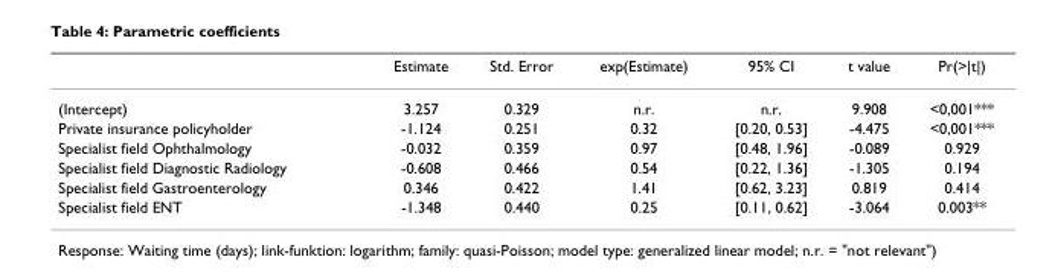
<table><thead><tr><td></td><td>Estimate</td><td>Std. Error</td><td>exp(Estimate)</td><td>95% CI</td><td>t value</td><td>Pr(&gt;|t|)</td></tr></thead><tbody><tr><td>(Intercept)</td><td>3.257</td><td>0.329</td><td>n.r.</td><td>n.r.</td><td>9.908</td><td>&lt;0,001***</td></tr><tr><td>Private insurance policyholder</td><td>-1.124</td><td>0.251</td><td>0.32</td><td>[0.20, 0.53]</td><td>-4.475</td><td>&lt;0,001***</td></tr><tr><td>Specialist field Ophthalmology</td><td>-0.032</td><td>0.359</td><td>0.97</td><td>[0.48, 1.96]</td><td>-0.089</td><td>0.929</td></tr><tr><td>Specialist field Diagnostic Radiology</td><td>-0.608</td><td>0.466</td><td>0.54</td><td>[0.22, 1.36]</td><td>-1.305</td><td>0.194</td></tr><tr><td>Specialist field Gastroenterology</td><td>0.346</td><td>0.422</td><td>1.41</td><td>[0.62, 3.23]</td><td>0.819</td><td>0.414</td></tr><tr><td>Specialist field ENT</td><td>-1.348</td><td>0.440</td><td>0.25</td><td>[0.11, 0.62]</td><td>-3.064</td><td>0.003**</td></tr></tbody></table>